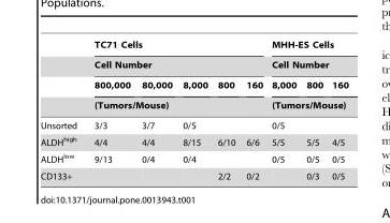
<table><thead><tr><td rowspan="4"></td><td rowspan="2" colspan="5">TC71 Cells Cell Number</td><td rowspan="2" colspan="3">MHH-ES Cells Cell Number</td></tr><tr></tr><tr><td>800,000</td><td>80,000</td><td>8,000</td><td>800</td><td>160</td><td>8,000</td><td>800</td><td>160</td></tr><tr><td colspan="5">(Tumors/Mouse)</td><td colspan="3">(Tumors/Mouse)</td></tr></thead><tbody><tr><td>Unsorted</td><td>3/3</td><td>3/7</td><td>0/5</td><td></td><td></td><td>0/5</td><td></td><td></td></tr><tr><td>ALDH<sup>high</sup></td><td>4/4</td><td>4/4</td><td>8/15</td><td>6/10</td><td>6/6</td><td>5/5</td><td>5/5</td><td>4/5</td></tr><tr><td>ALDH<sup>low</sup></td><td>9/13</td><td>0/4</td><td>0/4</td><td></td><td></td><td>0/5</td><td>0/5</td><td>0/5</td></tr><tr><td>CD133+</td><td></td><td></td><td></td><td>2/2</td><td>0/2</td><td></td><td>0/3</td><td>0/5</td></tr></tbody></table>